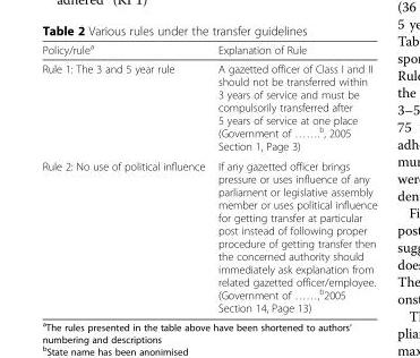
<table><thead><tr><td>Policy/rule<sup>a</sup></td><td>Explanation of Rule</td></tr></thead><tbody><tr><td>Rule 1: The 3 and 5 year rule</td><td>A gazetted officer of Class I and II should not be transferred within 3 years of service and must be compulsorily transferred after 5 years of service at one place (Government of …….<sup>b</sup>, 2005 Section 1, Page 3)</td></tr><tr><td>Rule 2: No use of political influence</td><td>If any gazetted officer brings pressure or uses influence of any parliament or legislative assembly member or uses political influence for getting transfer at particular post instead of following proper procedure of getting transfer then the concerned authority should immediately ask explanation from related gazetted officer/employee. (Government of ……,<sup>b</sup>2005 Section 14, Page 13)</td></tr></tbody></table>